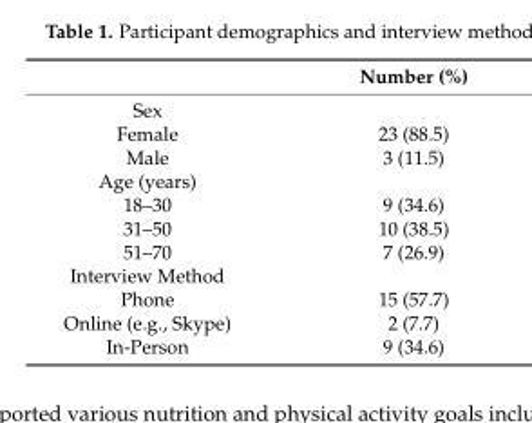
<table><thead><tr><td></td><td>Number (%)</td></tr></thead><tbody><tr><td colspan="2">Sex</td></tr><tr><td>Female</td><td>23 (88.5)</td></tr><tr><td>Male</td><td>3 (11.5)</td></tr><tr><td colspan="2">Age (years)</td></tr><tr><td>18–30</td><td>9 (34.6)</td></tr><tr><td>31–50</td><td>10 (38.5)</td></tr><tr><td>51–70</td><td>7 (26.9)</td></tr><tr><td colspan="2">Interview Method</td></tr><tr><td>Phone</td><td>15 (57.7)</td></tr><tr><td>Online (e.g., Skype)</td><td>2 (7.7)</td></tr><tr><td>In-Person</td><td>9 (34.6)</td></tr></tbody></table>